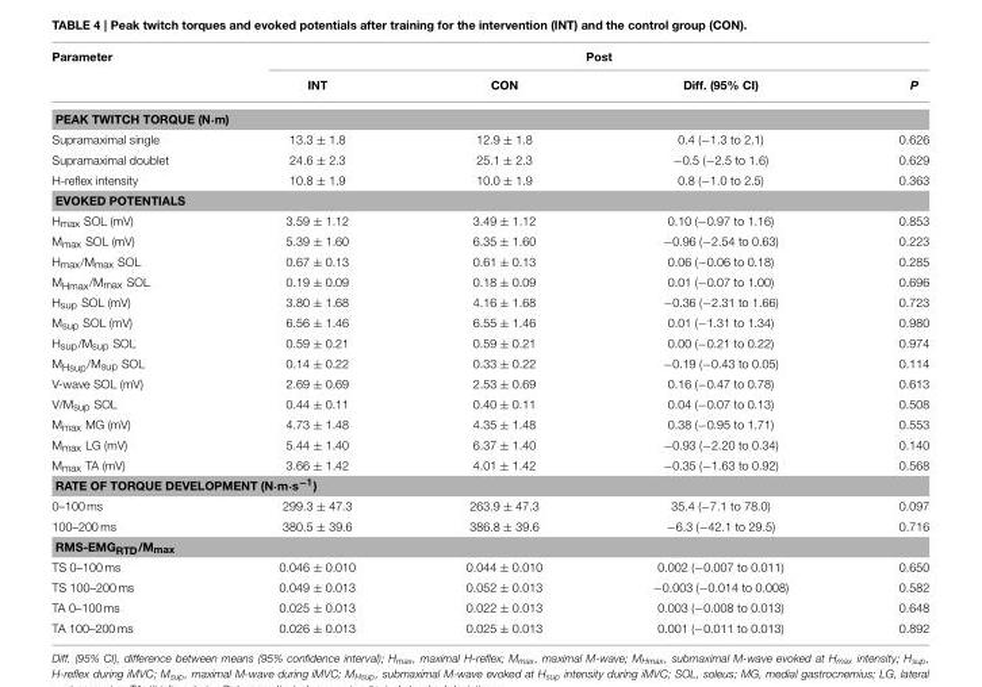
<table><thead><tr><td rowspan="2">Parameter</td><td colspan="4">Post</td></tr><tr><td>INT</td><td>CON</td><td>Diff. (95% CI)</td><td>P</td></tr></thead><tbody><tr><td colspan="5">PEAK TWITCH TORQUE (N·m)</td></tr><tr><td>Supramaximal single</td><td>13.3 ± 1.8</td><td>12.9 ± 1.8</td><td>0.4 (−1.3 to 2.1)</td><td>0.626</td></tr><tr><td>Supramaximal doublet</td><td>24.6 ± 2.3</td><td>25.1 ± 2.3</td><td>−0.5 (−2.5 to 1.6)</td><td>0.629</td></tr><tr><td>H-reflex intensity</td><td>10.8 ± 1.9</td><td>10.0 ± 1.9</td><td>0.8 (−1.0 to 2.5)</td><td>0.363</td></tr><tr><td colspan="5">EVOKED POTENTIALS</td></tr><tr><td>H<sub>max</sub> SOL (mV)</td><td>3.59 ± 1.12</td><td>3.49 ± 1.12</td><td>0.10 (−0.97 to 1.16)</td><td>0.853</td></tr><tr><td>M<sub>max</sub> SOL (mV)</td><td>5.39 ± 1.60</td><td>6.35 ± 1.60</td><td>−0.96 (−2.54 to 0.63)</td><td>0.223</td></tr><tr><td>H<sub>max</sub>/M<sub>max</sub> SOL</td><td>0.67 ± 0.13</td><td>0.61 ± 0.13</td><td>0.06 (−0.06 to 0.18)</td><td>0.285</td></tr><tr><td>M<sub>Hmax</sub>/M<sub>max</sub> SOL</td><td>0.19 ± 0.09</td><td>0.18 ± 0.09</td><td>0.01 (−0.07 to 1.00)</td><td>0.696</td></tr><tr><td>H<sub>sup</sub> SOL (mV)</td><td>3.80 ± 1.68</td><td>4.16 ± 1.68</td><td>−0.36 (−2.31 to 1.66)</td><td>0.723</td></tr><tr><td>M<sub>sup</sub> SOL (mV)</td><td>6.56 ± 1.46</td><td>6.55 ± 1.46</td><td>0.01 (−1.31 to 1.34)</td><td>0.980</td></tr><tr><td>H<sub>sup</sub>/M<sub>sup</sub> SOL</td><td>0.59 ± 0.21</td><td>0.59 ± 0.21</td><td>0.00 (−0.21 to 0.22)</td><td>0.974</td></tr><tr><td>M<sub>Hsup</sub>/M<sub>sup</sub> SOL</td><td>0.14 ± 0.22</td><td>0.33 ± 0.22</td><td>−0.19 (−0.43 to 0.05)</td><td>0.114</td></tr><tr><td>V-wave SOL (mV)</td><td>2.69 ± 0.69</td><td>2.53 ± 0.69</td><td>0.16 (−0.47 to 0.78)</td><td>0.613</td></tr><tr><td>V/M<sub>sup</sub> SOL</td><td>0.44 ± 0.11</td><td>0.40 ± 0.11</td><td>0.04 (−0.07 to 0.13)</td><td>0.508</td></tr><tr><td>M<sub>max</sub> MG (mV)</td><td>4.73 ± 1.48</td><td>4.35 ± 1.48</td><td>0.38 (−0.95 to 1.71)</td><td>0.553</td></tr><tr><td>M<sub>max</sub> LG (mV)</td><td>5.44 ± 1.40</td><td>6.37 ± 1.40</td><td>−0.93 (−2.20 to 0.34)</td><td>0.140</td></tr><tr><td>M<sub>max</sub> TA (mV)</td><td>3.66 ± 1.42</td><td>4.01 ± 1.42</td><td>−0.35 (−1.63 to 0.92)</td><td>0.568</td></tr><tr><td colspan="5">RATE OF TORQUE DEVELOPMENT (N·m·s<sup>−1</sup>)</td></tr><tr><td>0–100 ms</td><td>299.3 ± 47.3</td><td>263.9 ± 47.3</td><td>35.4 (−7.1 to 78.0)</td><td>0.097</td></tr><tr><td>100–200 ms</td><td>380.5 ± 39.6</td><td>386.8 ± 39.6</td><td>−6.3 (−42.1 to 29.5)</td><td>0.716</td></tr><tr><td colspan="5">RMS-EMG<sub>RTD</sub>/M<sub>max</sub></td></tr><tr><td>TS 0–100 ms</td><td>0.046 ± 0.010</td><td>0.044 ± 0.010</td><td>0.002 (−0.007 to 0.011)</td><td>0.650</td></tr><tr><td>TS 100–200 ms</td><td>0.049 ± 0.013</td><td>0.052 ± 0.013</td><td>−0.003 (−0.014 to 0.008)</td><td>0.582</td></tr><tr><td>TA 0–100 ms</td><td>0.025 ± 0.013</td><td>0.022 ± 0.013</td><td>0.003 (−0.008 to 0.013)</td><td>0.648</td></tr><tr><td>TA 100–200 ms</td><td>0.026 ± 0.013</td><td>0.025 ± 0.013</td><td>0.001 (−0.011 to 0.013)</td><td>0.892</td></tr></tbody></table>